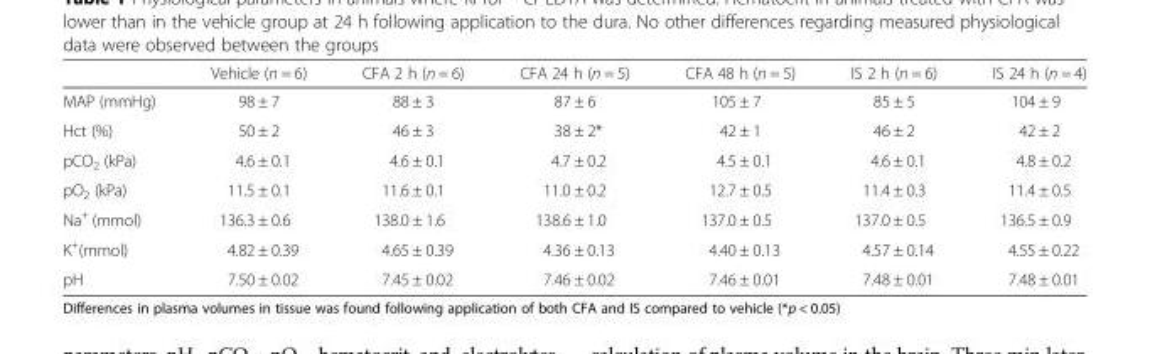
<table><thead><tr><td></td><td>Vehicle (n = 6)</td><td>CFA 2 h (n = 6)</td><td>CFA 24 h (n = 5)</td><td>CFA 48 h (n = 5)</td><td>IS 2 h (n = 6)</td><td>IS 24 h (n = 4)</td></tr></thead><tbody><tr><td>MAP (mmHg)</td><td>98 ± 7</td><td>88 ± 3</td><td>87 ± 6</td><td>105 ± 7</td><td>85 ± 5</td><td>104 ± 9</td></tr><tr><td>Hct (%)</td><td>50 ± 2</td><td>46 ± 3</td><td>38 ± 2*</td><td>42 ± 1</td><td>46 ± 2</td><td>42 ± 2</td></tr><tr><td>pCO<sub>2</sub> (kPa)</td><td>4.6 ± 0.1</td><td>4.6 ± 0.1</td><td>4.7 ± 0.2</td><td>4.5 ± 0.1</td><td>4.6 ± 0.1</td><td>4.8 ± 0.2</td></tr><tr><td>pO<sub>2</sub> (kPa)</td><td>11.5 ± 0.1</td><td>11.6 ± 0.1</td><td>11.0 ± 0.2</td><td>12.7 ± 0.5</td><td>11.4 ± 0.3</td><td>11.4 ± 0.5</td></tr><tr><td>Na<sup>+</sup> (mmol)</td><td>136.3 ± 0.6</td><td>138.0 ± 1.6</td><td>138.6 ± 1.0</td><td>137.0 ± 0.5</td><td>137.0 ± 0.5</td><td>136.5 ± 0.9</td></tr><tr><td>K<sup>+</sup>(mmol)</td><td>4.82 ± 0.39</td><td>4.65 ± 0.39</td><td>4.36 ± 0.13</td><td>4.40 ± 0.13</td><td>4.57 ± 0.14</td><td>4.55 ± 0.22</td></tr><tr><td>pH</td><td>7.50 ± 0.02</td><td>7.45 ± 0.02</td><td>7.46 ± 0.02</td><td>7.46 ± 0.01</td><td>7.48 ± 0.01</td><td>7.48 ± 0.01</td></tr></tbody></table>